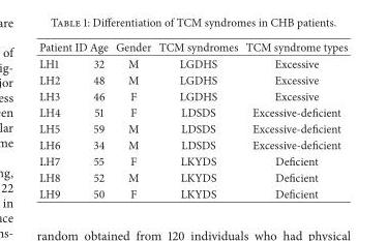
<table><thead><tr><td>Patient ID</td><td>Age</td><td>Gender</td><td>TCM syndromes</td><td>TCM syndrome types</td></tr></thead><tbody><tr><td>LH1</td><td>32</td><td>M</td><td>LGDHS</td><td>Excessive</td></tr><tr><td>LH2</td><td>48</td><td>M</td><td>LGDHS</td><td>Excessive</td></tr><tr><td>LH3</td><td>46</td><td>F</td><td>LGDHS</td><td>Excessive</td></tr><tr><td>LH4</td><td>51</td><td>F</td><td>LDSDS</td><td>Excessive-deficient</td></tr><tr><td>LH5</td><td>59</td><td>M</td><td>LDSDS</td><td>Excessive-deficient</td></tr><tr><td>LH6</td><td>34</td><td>M</td><td>LDSDS</td><td>Excessive-deficient</td></tr><tr><td>LH7</td><td>55</td><td>F</td><td>LKYDS</td><td>Deficient</td></tr><tr><td>LH8</td><td>52</td><td>M</td><td>LKYDS</td><td>Deficient</td></tr><tr><td>LH9</td><td>50</td><td>F</td><td>LKYDS</td><td>Deficient</td></tr></tbody></table>